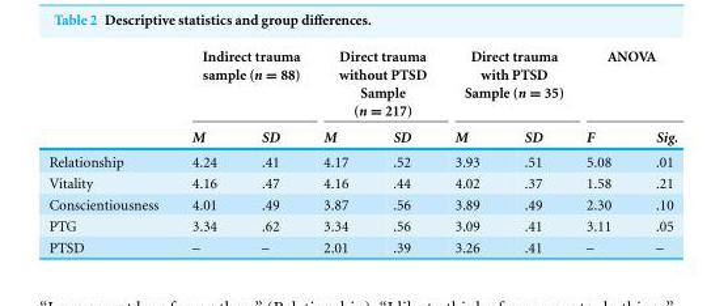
<table><thead><tr><td rowspan="2"></td><td colspan="2">Indirect trauma sample (n = 88)</td><td colspan="2">Direct trauma without PTSD Sample (n = 217)</td><td colspan="2">Direct trauma with PTSD Sample (n = 35)</td><td colspan="2">ANOVA</td></tr><tr><td>M</td><td>SD</td><td>M</td><td>SD</td><td>M</td><td>SD</td><td>F</td><td>Sig.</td></tr></thead><tbody><tr><td>Relationship</td><td>4.24</td><td>.41</td><td>4.17</td><td>.52</td><td>3.93</td><td>.51</td><td>5.08</td><td>.01</td></tr><tr><td>Vitality</td><td>4.16</td><td>.47</td><td>4.16</td><td>.44</td><td>4.02</td><td>.37</td><td>1.58</td><td>.21</td></tr><tr><td>Conscientiousness</td><td>4.01</td><td>.49</td><td>3.87</td><td>.56</td><td>3.89</td><td>.49</td><td>2.30</td><td>.10</td></tr><tr><td>PTG</td><td>3.34</td><td>.62</td><td>3.34</td><td>.56</td><td>3.09</td><td>.41</td><td>3.11</td><td>.05</td></tr><tr><td>PTSD</td><td>–</td><td>–</td><td>2.01</td><td>.39</td><td>3.26</td><td>.41</td><td>–</td><td>–</td></tr></tbody></table>